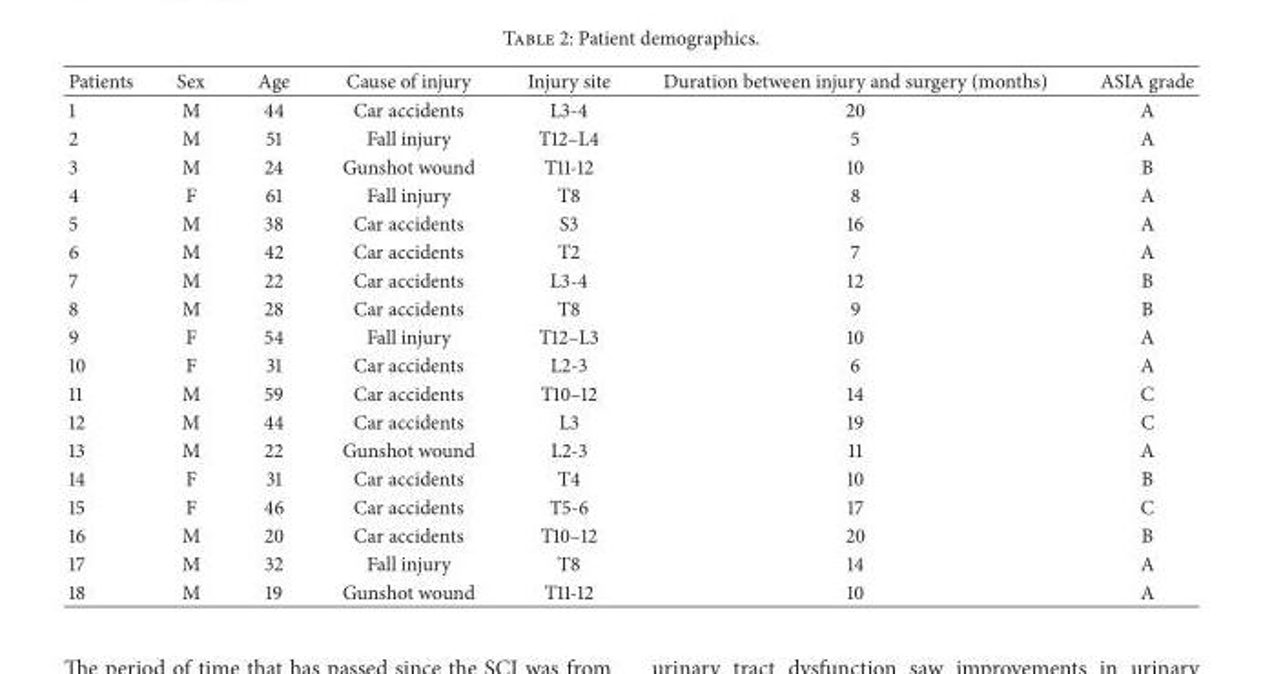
<table><thead><tr><td>Patients</td><td>Sex</td><td>Age</td><td>Cause of injury</td><td>Injury site</td><td>Duration between injury and surgery (months)</td><td>ASIA grade</td></tr></thead><tbody><tr><td>1</td><td>M</td><td>44</td><td>Car accidents</td><td>L3-4</td><td>20</td><td>A</td></tr><tr><td>2</td><td>M</td><td>51</td><td>Fall injury</td><td>T12–L4</td><td>5</td><td>A</td></tr><tr><td>3</td><td>M</td><td>24</td><td>Gunshot wound</td><td>T11-12</td><td>10</td><td>B</td></tr><tr><td>4</td><td>F</td><td>61</td><td>Fall injury</td><td>T8</td><td>8</td><td>A</td></tr><tr><td>5</td><td>M</td><td>38</td><td>Car accidents</td><td>S3</td><td>16</td><td>A</td></tr><tr><td>6</td><td>M</td><td>42</td><td>Car accidents</td><td>T2</td><td>7</td><td>A</td></tr><tr><td>7</td><td>M</td><td>22</td><td>Car accidents</td><td>L3-4</td><td>12</td><td>B</td></tr><tr><td>8</td><td>M</td><td>28</td><td>Car accidents</td><td>T8</td><td>9</td><td>B</td></tr><tr><td>9</td><td>F</td><td>54</td><td>Fall injury</td><td>T12–L3</td><td>10</td><td>A</td></tr><tr><td>10</td><td>F</td><td>31</td><td>Car accidents</td><td>L2-3</td><td>6</td><td>A</td></tr><tr><td>11</td><td>M</td><td>59</td><td>Car accidents</td><td>T10–12</td><td>14</td><td>C</td></tr><tr><td>12</td><td>M</td><td>44</td><td>Car accidents</td><td>L3</td><td>19</td><td>C</td></tr><tr><td>13</td><td>M</td><td>22</td><td>Gunshot wound</td><td>L2-3</td><td>11</td><td>A</td></tr><tr><td>14</td><td>F</td><td>31</td><td>Car accidents</td><td>T4</td><td>10</td><td>B</td></tr><tr><td>15</td><td>F</td><td>46</td><td>Car accidents</td><td>T5-6</td><td>17</td><td>C</td></tr><tr><td>16</td><td>M</td><td>20</td><td>Car accidents</td><td>T10–12</td><td>20</td><td>B</td></tr><tr><td>17</td><td>M</td><td>32</td><td>Fall injury</td><td>T8</td><td>14</td><td>A</td></tr><tr><td>18</td><td>M</td><td>19</td><td>Gunshot wound</td><td>T11-12</td><td>10</td><td>A</td></tr></tbody></table>